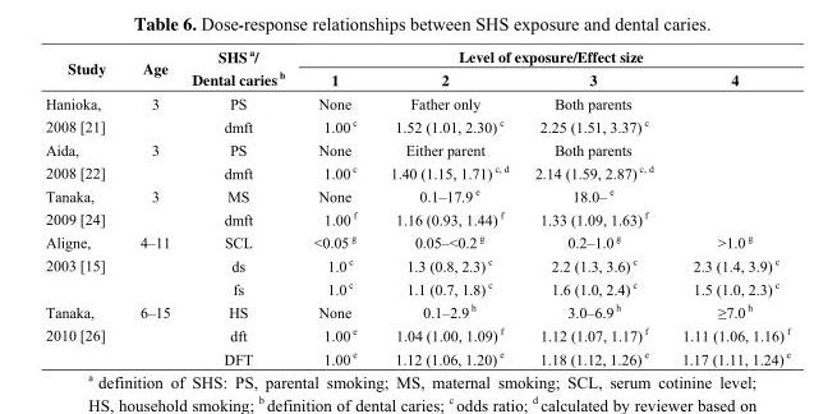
<table><thead><tr><td rowspan="2">Study</td><td rowspan="2">Age</td><td rowspan="2">SHS <sup>a</sup>/ Dental caries <sup>b</sup></td><td colspan="4">Level of exposure/Effect size</td></tr><tr><td>1</td><td>2</td><td>3</td><td>4</td></tr></thead><tbody><tr><td>Hanioka,</td><td>3</td><td>PS</td><td>None</td><td>Father only</td><td>Both parents</td><td></td></tr><tr><td>2008 [21]</td><td></td><td>dmft</td><td>1.00 <sup>c</sup></td><td>1.52 (1.01, 2.30) <sup>c</sup></td><td>2.25 (1.51, 3.37) <sup>c</sup></td><td></td></tr><tr><td>Aida,</td><td>3</td><td>PS</td><td>None</td><td>Either parent</td><td>Both parents</td><td></td></tr><tr><td>2008 [22]</td><td></td><td>dmft</td><td>1.00 <sup>c</sup></td><td>1.40 (1.15, 1.71) <sup>c, d</sup></td><td>2.14 (1.59, 2.87) <sup>c, d</sup></td><td></td></tr><tr><td>Tanaka,</td><td>3</td><td>MS</td><td>None</td><td>0.1–17.9 <sup>e</sup></td><td>18.0– <sup>e</sup></td><td></td></tr><tr><td>2009 [24]</td><td></td><td>dmft</td><td>1.00 <sup>f</sup></td><td>1.16 (0.93, 1.44) <sup>f</sup></td><td>1.33 (1.09, 1.63) <sup>f</sup></td><td></td></tr><tr><td>Aligne,</td><td>4–11</td><td>SCL</td><td>&lt;0.05 <sup>g</sup></td><td>0.05–&lt;0.2 <sup>g</sup></td><td>0.2–1.0 <sup>g</sup></td><td>&gt;1.0 <sup>g</sup></td></tr><tr><td rowspan="2">2003 [15]</td><td></td><td>ds</td><td>1.0 <sup>c</sup></td><td>1.3 (0.8, 2.3) <sup>c</sup></td><td>2.2 (1.3, 3.6) <sup>c</sup></td><td>2.3 (1.4, 3.9) <sup>c</sup></td></tr><tr><td></td><td>fs</td><td>1.0 <sup>c</sup></td><td>1.1 (0.7, 1.8) <sup>c</sup></td><td>1.6 (1.0, 2.4) <sup>c</sup></td><td>1.5 (1.0, 2.3) <sup>c</sup></td></tr><tr><td>Tanaka,</td><td>6–15</td><td>HS</td><td>None</td><td>0.1–2.9 <sup>h</sup></td><td>3.0–6.9 <sup>h</sup></td><td>≥7.0 <sup>h</sup></td></tr><tr><td rowspan="2">2010 [26]</td><td></td><td>dft</td><td>1.00 <sup>e</sup></td><td>1.04 (1.00, 1.09) <sup>f</sup></td><td>1.12 (1.07, 1.17) <sup>f</sup></td><td>1.11 (1.06, 1.16) <sup>f</sup></td></tr><tr><td></td><td>DFT</td><td>1.00 <sup>e</sup></td><td>1.12 (1.06, 1.20) <sup>e</sup></td><td>1.18 (1.12, 1.26) <sup>e</sup></td><td>1.17 (1.11, 1.24) <sup>e</sup></td></tr></tbody></table>